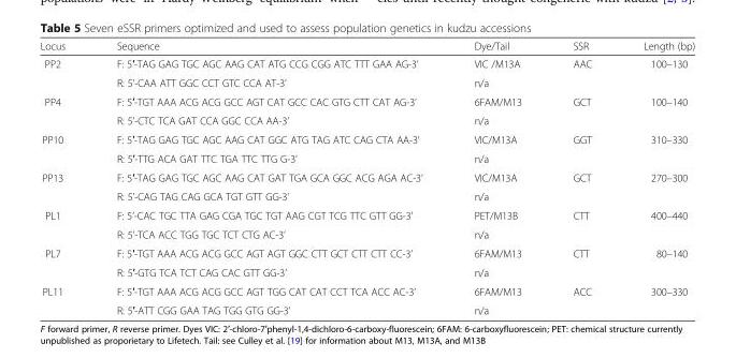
<table><thead><tr><td>Locus</td><td>Sequence</td><td>Dye/Tail</td><td>SSR</td><td>Length (bp)</td></tr></thead><tbody><tr><td rowspan="2">PP2</td><td>F: 5′-TAG GAG TGC AGC AAG CAT ATG CCG CGG ATC TTT GAA AG-3’</td><td>VIC /M13A</td><td rowspan="2">AAC</td><td rowspan="2">100–130</td></tr><tr><td>R: 5’-CAA ATT GGC CCT GTC CCA AT-3’</td><td>n/a</td></tr><tr><td rowspan="2">PP4</td><td>F: 5′-TGT AAA ACG ACG GCC AGT CAT GCC CAC GTG CTT CAT AG-3’</td><td>6FAM/M13</td><td rowspan="2">GCT</td><td rowspan="2">100–140</td></tr><tr><td>R: 5’-CTC TCA GAT CCA GGC CCA AA-3’</td><td>n/a</td></tr><tr><td rowspan="2">PP10</td><td>F: 5′-TAG GAG TGC AGC AAG CAT GGC ATG TAG ATC CAG CTA AA-3’</td><td>VIC/M13A</td><td rowspan="2">GGT</td><td rowspan="2">310–330</td></tr><tr><td>R: 5′-TTG ACA GAT TTC TGA TTC TTG G-3’</td><td>n/a</td></tr><tr><td rowspan="2">PP13</td><td>F: 5′-TAG GAG TGC AGC AAG CAT GAT TGA GCA GGC ACG AGA AC-3’</td><td>VIC/M13A</td><td rowspan="2">GCT</td><td rowspan="2">270–300</td></tr><tr><td>R: 5’-CAG TAG CAG GCA TGT GTT GG-3’</td><td>n/a</td></tr><tr><td rowspan="2">PL1</td><td>F: 5’-CAC TGC TTA GAG CGA TGC TGT AAG CGT TCG TTC GTT GG-3’</td><td>PET/M13B</td><td rowspan="2">CTT</td><td rowspan="2">400–440</td></tr><tr><td>R: 5’-TCA ACC TGG TGC TCT CTG AC-3’</td><td>n/a</td></tr><tr><td rowspan="2">PL7</td><td>F: 5′-TGT AAA ACG ACG GCC AGT AGT GGC CTT GCT CTT CTT CC-3’</td><td>6FAM/M13</td><td rowspan="2">CTT</td><td rowspan="2">80–140</td></tr><tr><td>R: 5′-GTG TCA TCT CAG CAC GTT GG-3’</td><td>n/a</td></tr><tr><td rowspan="2">PL11</td><td>F: 5′-TGT AAA ACG ACG GCC AGT TGG CAT CAT CCT TCA ACC AC-3’</td><td>6FAM/M13</td><td rowspan="2">ACC</td><td rowspan="2">300–330</td></tr><tr><td>R: 5′-ATT CGG GAA TAG TGG GTG GG-3’</td><td>n/a</td></tr></tbody></table>